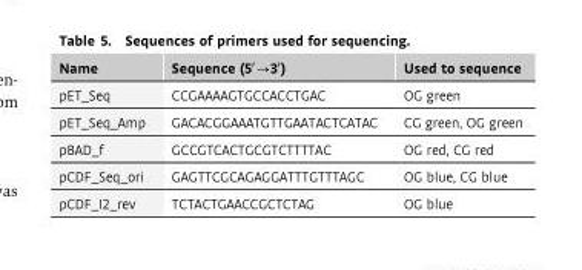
<table><thead><tr><td>Name</td><td>Sequence (5′→3′)</td><td>Used to sequence</td></tr></thead><tbody><tr><td>pET_Seq</td><td>CCGAAAAGTGCCACCTGAC</td><td>OG green</td></tr><tr><td>pET_Seq_Amp</td><td>GACACGGAAATGTTGAATACTCATAC</td><td>CG green, OG green</td></tr><tr><td>pBAD_f</td><td>GCCGTCACTGCGTCTTTTAC</td><td>OG red, CG red</td></tr><tr><td>pCDF_Seq_ori</td><td>GAGTTCGCAGAGGATTTGTTTAGC</td><td>OG blue, CG blue</td></tr><tr><td>pCDF_I2_rev</td><td>TCTACTGAACCGCTCTAG</td><td>OG blue</td></tr></tbody></table>